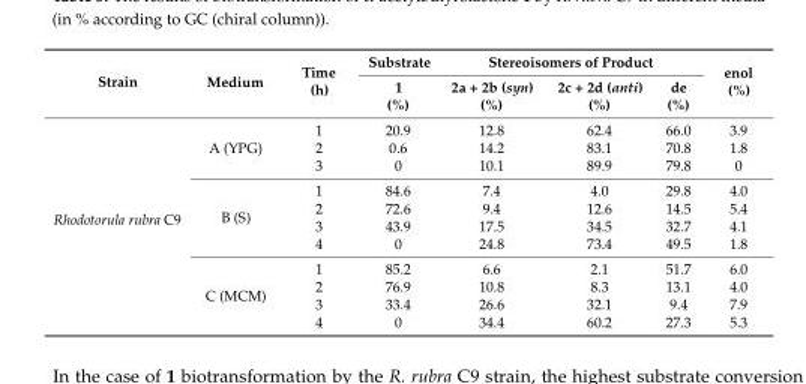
<table><thead><tr><td rowspan="2">Strain</td><td rowspan="2">Medium</td><td rowspan="2">Time (h)</td><td rowspan="2">Substrate 1 (%)</td><td colspan="3">Stereoisomers of Product</td><td rowspan="2">enol (%)</td></tr><tr><td>2a + 2b (syn) (%)</td><td>2c + 2d (anti) (%)</td><td>de (%)</td></tr></thead><tbody><tr><td rowspan="11">Rhodotorula rubra C9</td><td rowspan="3">A (YPG)</td><td>1</td><td>20.9</td><td>12.8</td><td>62.4</td><td>66.0</td><td>3.9</td></tr><tr><td>2</td><td>0.6</td><td>14.2</td><td>83.1</td><td>70.8</td><td>1.8</td></tr><tr><td>3</td><td>0</td><td>10.1</td><td>89.9</td><td>79.8</td><td>0</td></tr><tr><td rowspan="4">B (S)</td><td>1</td><td>84.6</td><td>7.4</td><td>4.0</td><td>29.8</td><td>4.0</td></tr><tr><td>2</td><td>72.6</td><td>9.4</td><td>12.6</td><td>14.5</td><td>5.4</td></tr><tr><td>3</td><td>43.9</td><td>17.5</td><td>34.5</td><td>32.7</td><td>4.1</td></tr><tr><td>4</td><td>0</td><td>24.8</td><td>73.4</td><td>49.5</td><td>1.8</td></tr><tr><td rowspan="4">C (MCM)</td><td>1</td><td>85.2</td><td>6.6</td><td>2.1</td><td>51.7</td><td>6.0</td></tr><tr><td>2</td><td>76.9</td><td>10.8</td><td>8.3</td><td>13.1</td><td>4.0</td></tr><tr><td>3</td><td>33.4</td><td>26.6</td><td>32.1</td><td>9.4</td><td>7.9</td></tr><tr><td>4</td><td>0</td><td>34.4</td><td>60.2</td><td>27.3</td><td>5.3</td></tr></tbody></table>